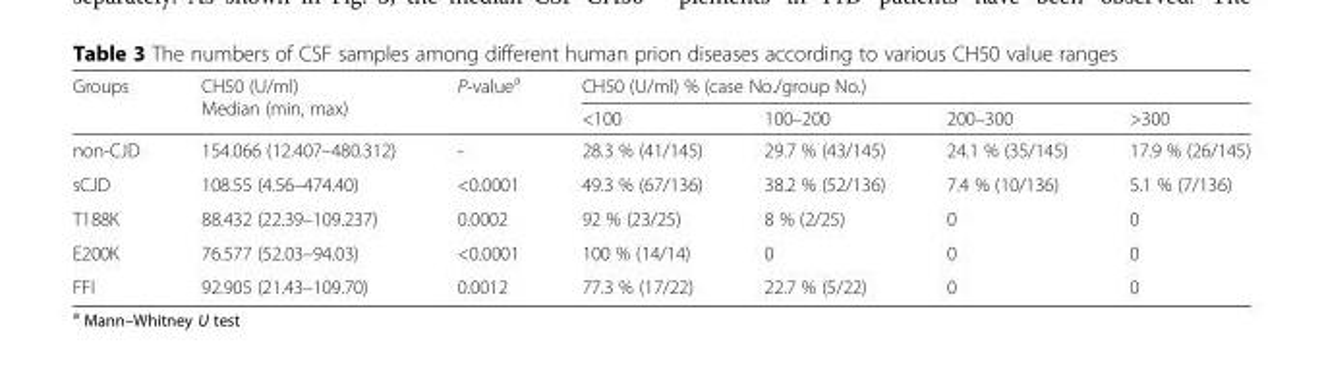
<table><thead><tr><td rowspan="2">Groups</td><td rowspan="2">CH50 (U/ml) Median (min, max)</td><td rowspan="2">P-value<sup>a</sup></td><td colspan="4">CH50 (U/ml) % (case No./group No.)</td></tr><tr><td>&lt;100</td><td>100–200</td><td>200–300</td><td>&gt;300</td></tr></thead><tbody><tr><td>non-CJD</td><td>154.066 (12.407–480.312)</td><td>-</td><td>28.3 % (41/145)</td><td>29.7 % (43/145)</td><td>24.1 % (35/145)</td><td>17.9 % (26/145)</td></tr><tr><td>sCJD</td><td>108.55 (4.56–474.40)</td><td>&lt;0.0001</td><td>49.3 % (67/136)</td><td>38.2 % (52/136)</td><td>7.4 % (10/136)</td><td>5.1 % (7/136)</td></tr><tr><td>T188K</td><td>88.432 (22.39–109.237)</td><td>0.0002</td><td>92 % (23/25)</td><td>8 % (2/25)</td><td>0</td><td>0</td></tr><tr><td>E200K</td><td>76.577 (52.03–94.03)</td><td>&lt;0.0001</td><td>100 % (14/14)</td><td>0</td><td>0</td><td>0</td></tr><tr><td>FFI</td><td>92.905 (21.43–109.70)</td><td>0.0012</td><td>77.3 % (17/22)</td><td>22.7 % (5/22)</td><td>0</td><td>0</td></tr></tbody></table>